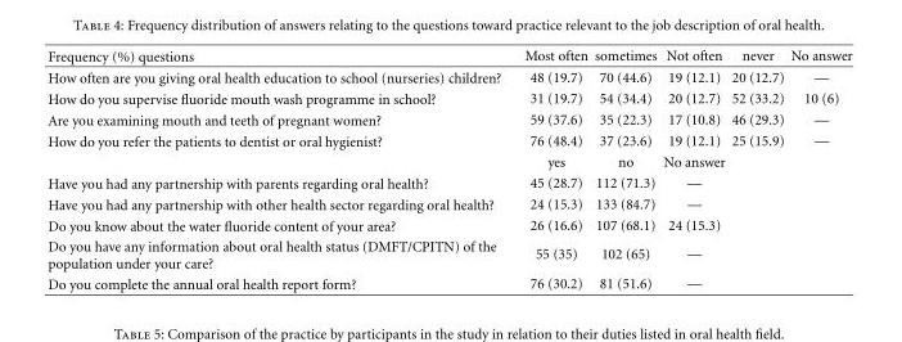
<table><thead><tr><td>Frequency (%) questions</td><td>Most often</td><td>sometimes</td><td>Not often</td><td>never</td><td>No answer</td></tr></thead><tbody><tr><td>How often are you giving oral health education to school (nurseries) children?</td><td>48 (19.7)</td><td>70 (44.6)</td><td>19 (12.1)</td><td>20 (12.7)</td><td>—</td></tr><tr><td>How do you supervise fluoride mouth wash programme in school?</td><td>31 (19.7)</td><td>54 (34.4)</td><td>20 (12.7)</td><td>52 (33.2)</td><td>10 (6)</td></tr><tr><td>Are you examining mouth and teeth of pregnant women?</td><td>59 (37.6)</td><td>35 (22.3)</td><td>17 (10.8)</td><td>46 (29.3)</td><td>—</td></tr><tr><td rowspan="2">How do you refer the patients to dentist or oral hygienist?</td><td>76 (48.4)</td><td>37 (23.6)</td><td>19 (12.1)</td><td>25 (15.9)</td><td>—</td></tr><tr><td>yes</td><td>no</td><td>No answer</td><td></td><td></td></tr><tr><td>Have you had any partnership with parents regarding oral health?</td><td>45 (28.7)</td><td>112 (71.3)</td><td>—</td><td></td><td></td></tr><tr><td>Have you had any partnership with other health sector regarding oral health?</td><td>24 (15.3)</td><td>133 (84.7)</td><td>—</td><td></td><td></td></tr><tr><td>Do you know about the water fluoride content of your area?</td><td>26 (16.6)</td><td>107 (68.1)</td><td>24 (15.3)</td><td></td><td></td></tr><tr><td>Do you have any information about oral health status (DMFT/CPITN) of the population under your care?</td><td>55 (35)</td><td>102 (65)</td><td>—</td><td></td><td></td></tr><tr><td>Do you complete the annual oral health report form?</td><td>76 (30.2)</td><td>81 (51.6)</td><td>—</td><td></td><td></td></tr></tbody></table>